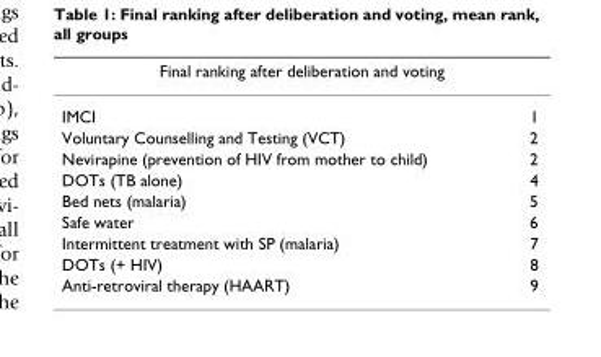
<table><thead><tr><td colspan="2">Final ranking after deliberation and voting</td></tr><tr><td>IMCI</td><td>1</td></tr></thead><tbody><tr><td>Voluntary Counselling and Testing (VCT)</td><td>2</td></tr><tr><td>Nevirapine (prevention of HIV from mother to child)</td><td>2</td></tr><tr><td>DOTs (TB alone)</td><td>4</td></tr><tr><td>Bed nets (malaria)</td><td>5</td></tr><tr><td>Safe water</td><td>6</td></tr><tr><td>Intermittent treatment with SP (malaria)</td><td>7</td></tr><tr><td>DOTs (+ HIV)</td><td>8</td></tr><tr><td>Anti-retroviral therapy (HAART)</td><td>9</td></tr></tbody></table>